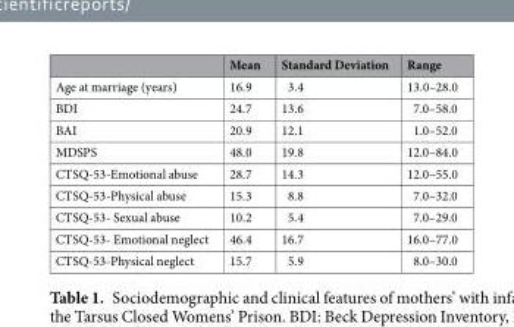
<table><thead><tr><td></td><td>Mean</td><td>Standard Deviation</td><td>Range</td></tr></thead><tbody><tr><td>Age at marriage (years)</td><td>16.9</td><td>3.4</td><td>13.0–28.0</td></tr><tr><td>BDI</td><td>24.7</td><td>13.6</td><td>7.0–58.0</td></tr><tr><td>BAI</td><td>20.9</td><td>12.1</td><td>1.0–52.0</td></tr><tr><td>MDSPS</td><td>48.0</td><td>19.8</td><td>12.0–84.0</td></tr><tr><td>CTSQ-53-Emotional abuse</td><td>28.7</td><td>14.3</td><td>12.0–55.0</td></tr><tr><td>CTSQ-53-Physical abuse</td><td>15.3</td><td>8.8</td><td>7.0–32.0</td></tr><tr><td>CTSQ-53- Sexual abuse</td><td>10.2</td><td>5.4</td><td>7.0–29.0</td></tr><tr><td>CTSQ-53- Emotional neglect</td><td>46.4</td><td>16.7</td><td>16.0–77.0</td></tr><tr><td>CTSQ-53-Physical neglect</td><td>15.7</td><td>5.9</td><td>8.0–30.0</td></tr></tbody></table>